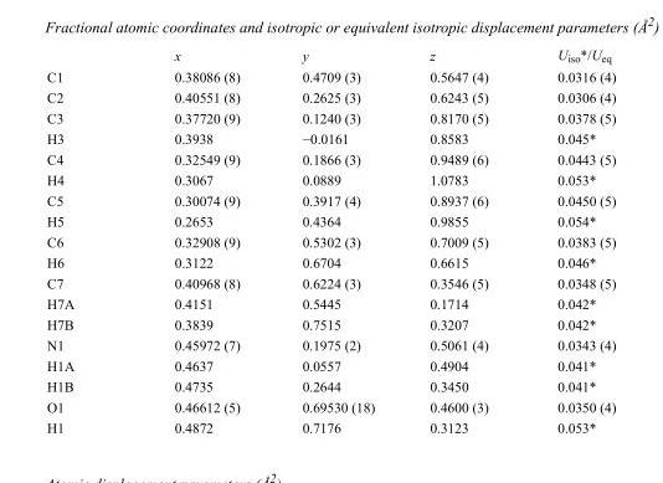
<table><thead><tr><td></td><td>x</td><td>y</td><td>z</td><td>U<sub>iso</sub>*/U<sub>eq</sub></td></tr></thead><tbody><tr><td>C1</td><td>0.38086 (8)</td><td>0.4709 (3)</td><td>0.5647 (4)</td><td>0.0316 (4)</td></tr><tr><td>C2</td><td>0.40551 (8)</td><td>0.2625 (3)</td><td>0.6243 (5)</td><td>0.0306 (4)</td></tr><tr><td>C3</td><td>0.37720 (9)</td><td>0.1240 (3)</td><td>0.8170 (5)</td><td>0.0378 (5)</td></tr><tr><td>H3</td><td>0.3938</td><td>−0.0161</td><td>0.8583</td><td>0.045*</td></tr><tr><td>C4</td><td>0.32549 (9)</td><td>0.1866 (3)</td><td>0.9489 (6)</td><td>0.0443 (5)</td></tr><tr><td>H4</td><td>0.3067</td><td>0.0889</td><td>1.0783</td><td>0.053*</td></tr><tr><td>C5</td><td>0.30074 (9)</td><td>0.3917 (4)</td><td>0.8937 (6)</td><td>0.0450 (5)</td></tr><tr><td>H5</td><td>0.2653</td><td>0.4364</td><td>0.9855</td><td>0.054*</td></tr><tr><td>C6</td><td>0.32908 (9)</td><td>0.5302 (3)</td><td>0.7009 (5)</td><td>0.0383 (5)</td></tr><tr><td>H6</td><td>0.3122</td><td>0.6704</td><td>0.6615</td><td>0.046*</td></tr><tr><td>C7</td><td>0.40968 (8)</td><td>0.6224 (3)</td><td>0.3546 (5)</td><td>0.0348 (5)</td></tr><tr><td>H7A</td><td>0.4151</td><td>0.5445</td><td>0.1714</td><td>0.042*</td></tr><tr><td>H7B</td><td>0.3839</td><td>0.7515</td><td>0.3207</td><td>0.042*</td></tr><tr><td>N1</td><td>0.45972 (7)</td><td>0.1975 (2)</td><td>0.5061 (4)</td><td>0.0343 (4)</td></tr><tr><td>H1A</td><td>0.4637</td><td>0.0557</td><td>0.4904</td><td>0.041*</td></tr><tr><td>H1B</td><td>0.4735</td><td>0.2644</td><td>0.3450</td><td>0.041*</td></tr><tr><td>O1</td><td>0.46612 (5)</td><td>0.69530 (18)</td><td>0.4600 (3)</td><td>0.0350 (4)</td></tr><tr><td>H1</td><td>0.4872</td><td>0.7176</td><td>0.3123</td><td>0.053*</td></tr></tbody></table>